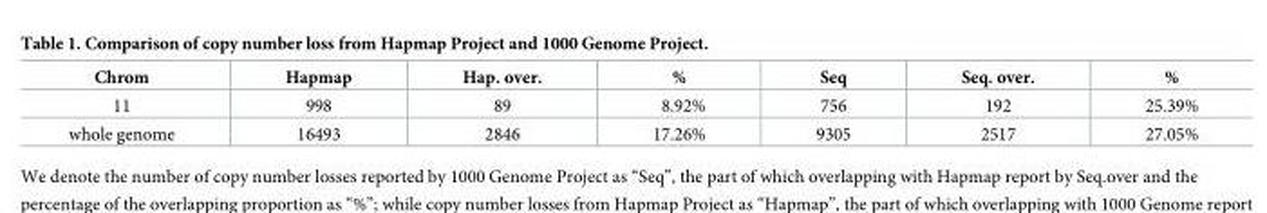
<table><thead><tr><td>Chrom</td><td>Hapmap</td><td>Hap. over.</td><td>%</td><td>Seq</td><td>Seq. over.</td><td>%</td></tr></thead><tbody><tr><td>11</td><td>998</td><td>89</td><td>8.92%</td><td>756</td><td>192</td><td>25.39%</td></tr><tr><td>whole genome</td><td>16493</td><td>2846</td><td>17.26%</td><td>9305</td><td>2517</td><td>27.05%</td></tr></tbody></table>